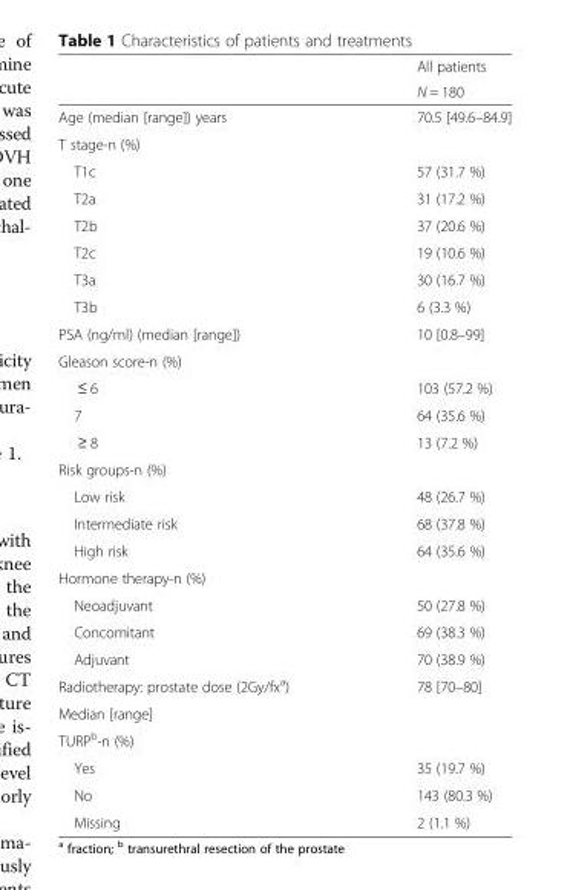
<table><thead><tr><td rowspan="2"></td><td rowspan="2">All patients N = 180</td></tr><tr></tr></thead><tbody><tr><td>Age (median [range]) years</td><td>70.5 [49.6–84.9]</td></tr><tr><td colspan="2">T stage-n (%)</td></tr><tr><td>T1c</td><td>57 (31.7 %)</td></tr><tr><td>T2a</td><td>31 (17.2 %)</td></tr><tr><td>T2b</td><td>37 (20.6 %)</td></tr><tr><td>T2c</td><td>19 (10.6 %)</td></tr><tr><td>T3a</td><td>30 (16.7 %)</td></tr><tr><td>T3b</td><td>6 (3.3 %)</td></tr><tr><td>PSA (ng/ml) (median [range])</td><td>10 [0.8–99]</td></tr><tr><td colspan="2">Gleason score-n (%)</td></tr><tr><td>≤ 6</td><td>103 (57.2 %)</td></tr><tr><td>7</td><td>64 (35.6 %)</td></tr><tr><td>≥ 8</td><td>13 (7.2 %)</td></tr><tr><td colspan="2">Risk groups-n (%)</td></tr><tr><td>Low risk</td><td>48 (26.7 %)</td></tr><tr><td>Intermediate risk</td><td>68 (37.8 %)</td></tr><tr><td>High risk</td><td>64 (35.6 %)</td></tr><tr><td colspan="2">Hormone therapy-n (%)</td></tr><tr><td>Neoadjuvant</td><td>50 (27.8 %)</td></tr><tr><td>Concomitant</td><td>69 (38.3 %)</td></tr><tr><td>Adjuvant</td><td>70 (38.9 %)</td></tr><tr><td>Radiotherapy: prostate dose (2Gy/fx<sup>a</sup>)</td><td rowspan="2">78 [70–80]</td></tr><tr><td>Median [range]</td></tr><tr><td colspan="2">TURP<sup>b</sup>-n (%)</td></tr><tr><td>Yes</td><td>35 (19.7 %)</td></tr><tr><td>No</td><td>143 (80.3 %)</td></tr><tr><td>Missing</td><td>2 (1.1 %)</td></tr></tbody></table>